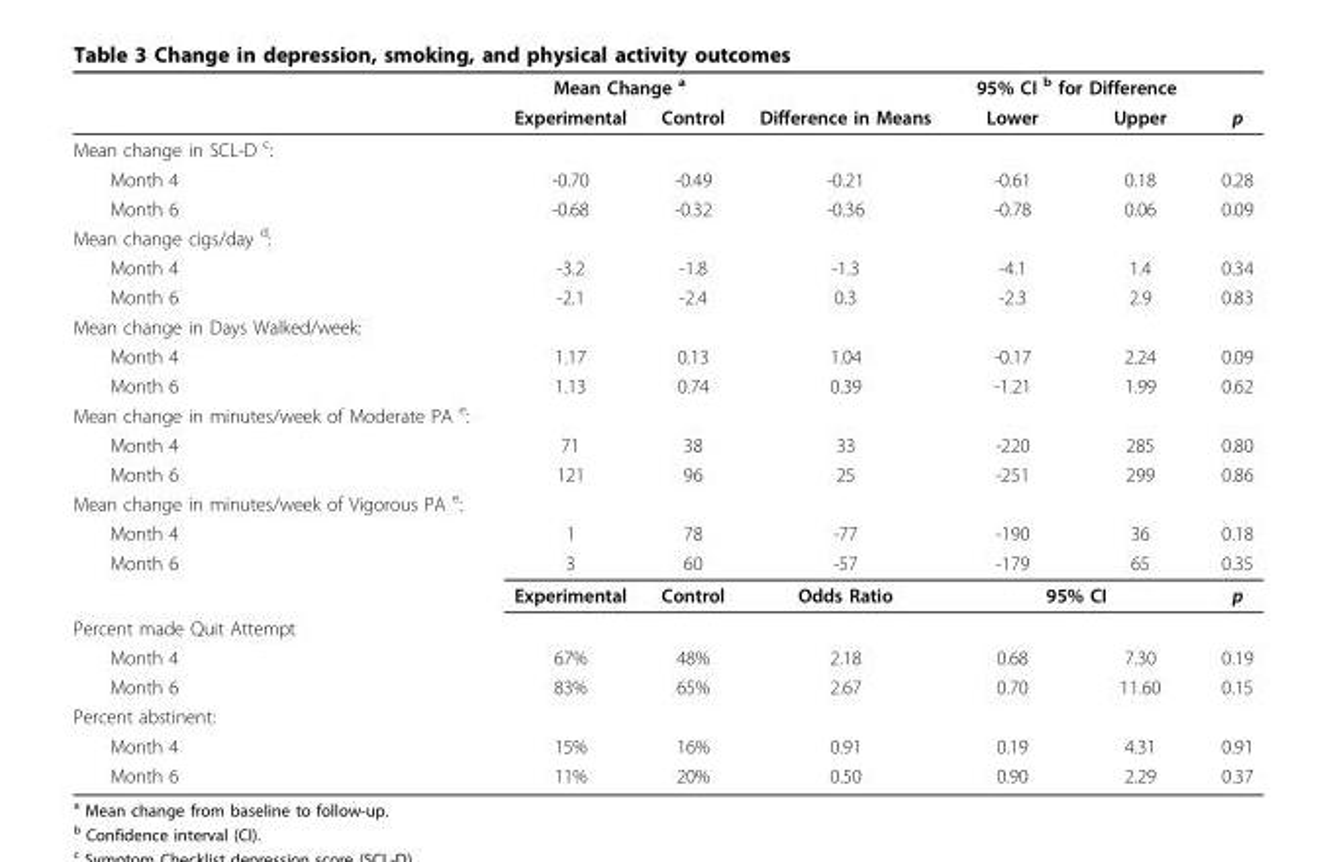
<table><thead><tr><td rowspan="2"></td><td colspan="2">Mean Change <sup>a</sup></td><td rowspan="2">Difference in Means</td><td colspan="2">95% CI <sup>b</sup> for Difference</td><td rowspan="2">p</td></tr><tr><td>Experimental</td><td>Control</td><td>Lower</td><td>Upper</td></tr></thead><tbody><tr><td colspan="7">Mean change in SCL-D <sup>c</sup>:</td></tr><tr><td>Month 4</td><td>-0.70</td><td>-0.49</td><td>-0.21</td><td>-0.61</td><td>0.18</td><td>0.28</td></tr><tr><td>Month 6</td><td>-0.68</td><td>-0.32</td><td>-0.36</td><td>-0.78</td><td>0.06</td><td>0.09</td></tr><tr><td colspan="7">Mean change cigs/day <sup>d</sup>:</td></tr><tr><td>Month 4</td><td>-3.2</td><td>-1.8</td><td>-1.3</td><td>-4.1</td><td>1.4</td><td>0.34</td></tr><tr><td>Month 6</td><td>-2.1</td><td>-2.4</td><td>0.3</td><td>-2.3</td><td>2.9</td><td>0.83</td></tr><tr><td colspan="7">Mean change in Days Walked/week:</td></tr><tr><td>Month 4</td><td>1.17</td><td>0.13</td><td>1.04</td><td>-0.17</td><td>2.24</td><td>0.09</td></tr><tr><td>Month 6</td><td>1.13</td><td>0.74</td><td>0.39</td><td>-1.21</td><td>1.99</td><td>0.62</td></tr><tr><td colspan="7">Mean change in minutes/week of Moderate PA <sup>e</sup>:</td></tr><tr><td>Month 4</td><td>71</td><td>38</td><td>33</td><td>-220</td><td>285</td><td>0.80</td></tr><tr><td>Month 6</td><td>121</td><td>96</td><td>25</td><td>-251</td><td>299</td><td>0.86</td></tr><tr><td colspan="7">Mean change in minutes/week of Vigorous PA <sup>e</sup>:</td></tr><tr><td>Month 4</td><td>1</td><td>78</td><td>-77</td><td>-190</td><td>36</td><td>0.18</td></tr><tr><td rowspan="2">Month 6</td><td>3</td><td>60</td><td>-57</td><td>-179</td><td>65</td><td>0.35</td></tr><tr><td>Experimental</td><td>Control</td><td>Odds Ratio</td><td colspan="2">95% CI</td><td>p</td></tr><tr><td colspan="7">Percent made Quit Attempt</td></tr><tr><td>Month 4</td><td>67%</td><td>48%</td><td>2.18</td><td>0.68</td><td>7.30</td><td>0.19</td></tr><tr><td>Month 6</td><td>83%</td><td>65%</td><td>2.67</td><td>0.70</td><td>11.60</td><td>0.15</td></tr><tr><td colspan="7">Percent abstinent:</td></tr><tr><td>Month 4</td><td>15%</td><td>16%</td><td>0.91</td><td>0.19</td><td>4.31</td><td>0.91</td></tr><tr><td>Month 6</td><td>11%</td><td>20%</td><td>0.50</td><td>0.90</td><td>2.29</td><td>0.37</td></tr></tbody></table>